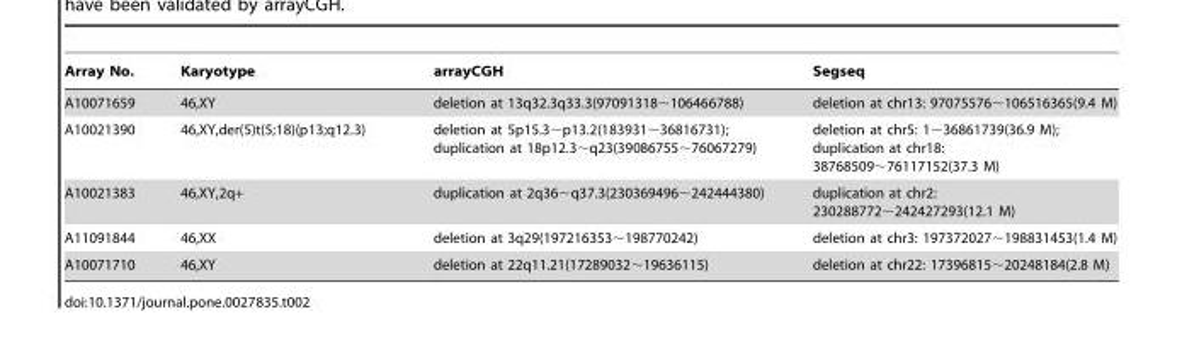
<table><thead><tr><td>Array No.</td><td>Karyotype</td><td>arrayCGH</td><td>Segseq</td></tr></thead><tbody><tr><td>A10071659</td><td>46,XY</td><td>deletion at 13q32.3q33.3(97091318∼106466788)</td><td>deletion at chr13: 97075576∼106516365(9.4 M)</td></tr><tr><td>A10021390</td><td>46,XY,der(5)t(5;18)(p13;q12.3)</td><td>deletion at 5p15.3∼p13.2(183931∼36816731); duplication at 18p12.3∼q23(39086755∼76067279)</td><td>deletion at chr5: 1∼36861739(36.9 M); duplication at chr18: 38768509∼76117152(37.3 M)</td></tr><tr><td>A10021383</td><td>46,XY,2q+</td><td>duplication at 2q36∼q37.3(230369496∼242444380)</td><td>duplication at chr2: 230288772∼242427293(12.1 M)</td></tr><tr><td>A11091844</td><td>46,XX</td><td>deletion at 3q29(197216353∼198770242)</td><td>deletion at chr3: 197372027∼198831453(1.4 M)</td></tr><tr><td>A10071710</td><td>46,XY</td><td>deletion at 22q11.21(17289032∼19636115)</td><td>deletion at chr22: 17396815∼20248184(2.8 M)</td></tr></tbody></table>